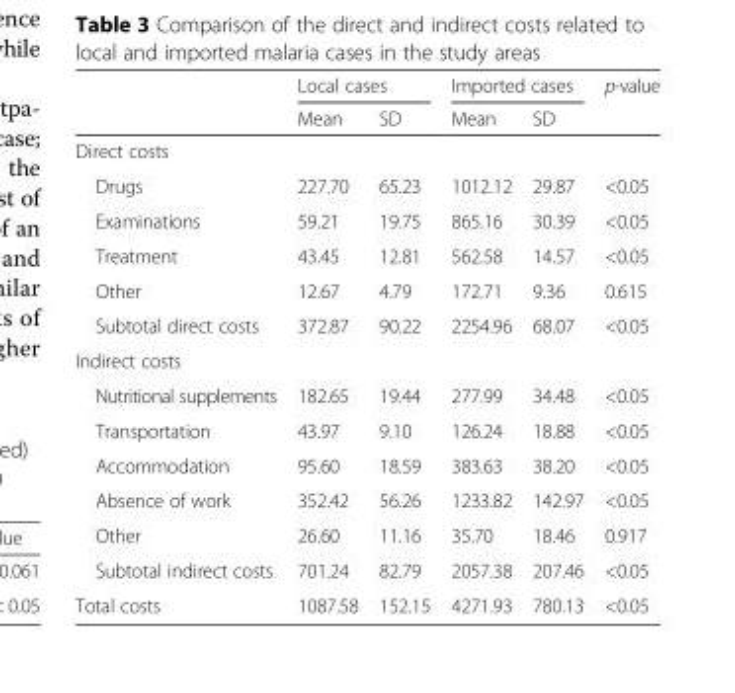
<table><thead><tr><td rowspan="2"></td><td colspan="2">Local cases</td><td colspan="2">Imported cases</td><td rowspan="2">p-value</td></tr><tr><td>Mean</td><td>SD</td><td>Mean</td><td>SD</td></tr></thead><tbody><tr><td colspan="6">Direct costs</td></tr><tr><td>Drugs</td><td>227.70</td><td>65.23</td><td>1012.12</td><td>29.87</td><td>&lt;0.05</td></tr><tr><td>Examinations</td><td>59.21</td><td>19.75</td><td>865.16</td><td>30.39</td><td>&lt;0.05</td></tr><tr><td>Treatment</td><td>43.45</td><td>12.81</td><td>562.58</td><td>14.57</td><td>&lt;0.05</td></tr><tr><td>Other</td><td>12.67</td><td>4.79</td><td>172.71</td><td>9.36</td><td>0.615</td></tr><tr><td>Subtotal direct costs</td><td>372.87</td><td>90.22</td><td>2254.96</td><td>68.07</td><td>&lt;0.05</td></tr><tr><td colspan="6">Indirect costs</td></tr><tr><td>Nutritional supplements</td><td>182.65</td><td>19.44</td><td>277.99</td><td>34.48</td><td>&lt;0.05</td></tr><tr><td>Transportation</td><td>43.97</td><td>9.10</td><td>126.24</td><td>18.88</td><td>&lt;0.05</td></tr><tr><td>Accommodation</td><td>95.60</td><td>18.59</td><td>383.63</td><td>38.20</td><td>&lt;0.05</td></tr><tr><td>Absence of work</td><td>352.42</td><td>56.26</td><td>1233.82</td><td>142.97</td><td>&lt;0.05</td></tr><tr><td>Other</td><td>26.60</td><td>11.16</td><td>35.70</td><td>18.46</td><td>0.917</td></tr><tr><td>Subtotal indirect costs</td><td>701.24</td><td>82.79</td><td>2057.38</td><td>207.46</td><td>&lt;0.05</td></tr><tr><td>Total costs</td><td>1087.58</td><td>152.15</td><td>4271.93</td><td>780.13</td><td>&lt;0.05</td></tr></tbody></table>